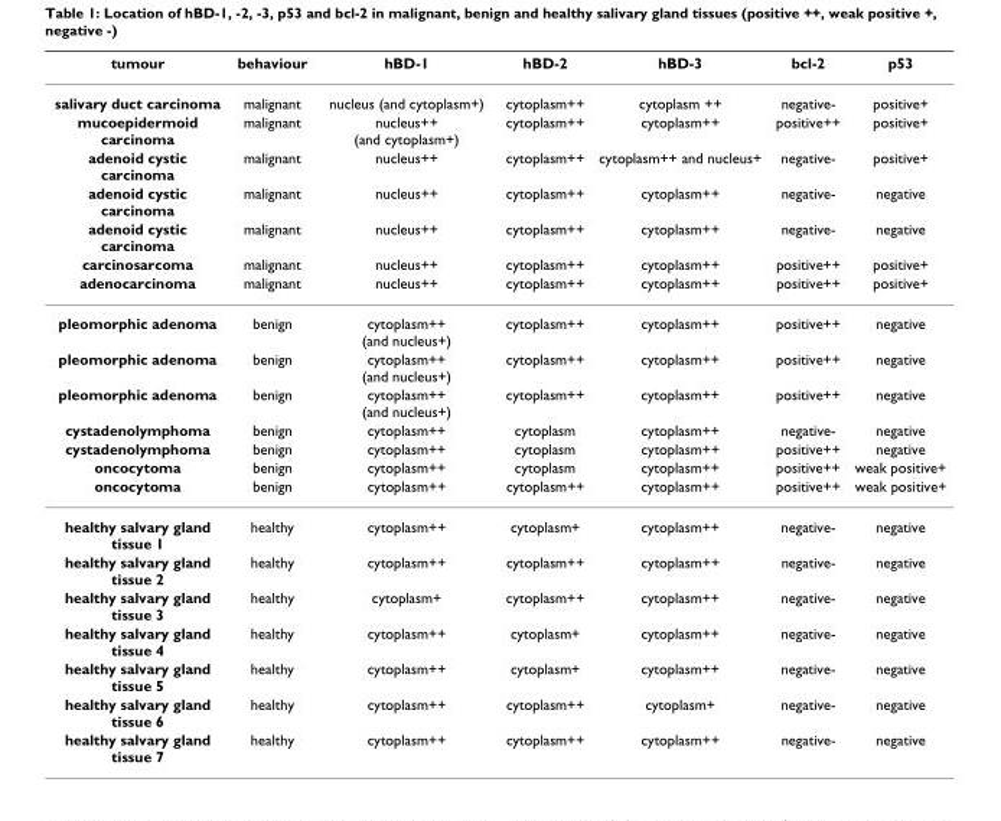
<table><thead><tr><td>tumour</td><td>behaviour</td><td>hBD-1</td><td>hBD-2</td><td>hBD-3</td><td>bcl-2</td><td>p53</td></tr></thead><tbody><tr><td>salivary duct carcinoma</td><td>malignant</td><td>nucleus (and cytoplasm+)</td><td>cytoplasm++</td><td>cytoplasm ++</td><td>negative-</td><td>positive+</td></tr><tr><td>mucoepidermoid carcinoma</td><td>malignant</td><td>nucleus++ (and cytoplasm+)</td><td>cytoplasm++</td><td>cytoplasm++</td><td>positive++</td><td>positive+</td></tr><tr><td>adenoid cystic carcinoma</td><td>malignant</td><td>nucleus++</td><td>cytoplasm++</td><td>cytoplasm++ and nucleus+</td><td>negative-</td><td>positive+</td></tr><tr><td>adenoid cystic carcinoma</td><td>malignant</td><td>nucleus++</td><td>cytoplasm++</td><td>cytoplasm++</td><td>negative-</td><td>negative</td></tr><tr><td>adenoid cystic carcinoma</td><td>malignant</td><td>nucleus++</td><td>cytoplasm++</td><td>cytoplasm++</td><td>negative-</td><td>negative</td></tr><tr><td>carcinosarcoma</td><td>malignant</td><td>nucleus++</td><td>cytoplasm++</td><td>cytoplasm++</td><td>positive++</td><td>positive+</td></tr><tr><td>adenocarcinoma</td><td>malignant</td><td>nucleus++</td><td>cytoplasm++</td><td>cytoplasm++</td><td>positive++</td><td>positive+</td></tr><tr><td>pleomorphic adenoma</td><td>benign</td><td>cytoplasm++ (and nucleus+)</td><td>cytoplasm++</td><td>cytoplasm++</td><td>positive++</td><td>negative</td></tr><tr><td>pleomorphic adenoma</td><td>benign</td><td>cytoplasm++ (and nucleus+)</td><td>cytoplasm++</td><td>cytoplasm++</td><td>positive++</td><td>negative</td></tr><tr><td>pleomorphic adenoma</td><td>benign</td><td>cytoplasm++ (and nucleus+)</td><td>cytoplasm++</td><td>cytoplasm++</td><td>positive++</td><td>negative</td></tr><tr><td>cystadenolymphoma</td><td>benign</td><td>cytoplasm++</td><td>cytoplasm</td><td>cytoplasm++</td><td>negative-</td><td>negative</td></tr><tr><td>cystadenolymphoma</td><td>benign</td><td>cytoplasm++</td><td>cytoplasm</td><td>cytoplasm++</td><td>positive++</td><td>negative</td></tr><tr><td>oncocytoma</td><td>benign</td><td>cytoplasm++</td><td>cytoplasm</td><td>cytoplasm++</td><td>positive++</td><td>weak positive+</td></tr><tr><td>oncocytoma</td><td>benign</td><td>cytoplasm++</td><td>cytoplasm++</td><td>cytoplasm++</td><td>positive++</td><td>weak positive+</td></tr><tr><td>healthy salvary gland tissue 1</td><td>healthy</td><td>cytoplasm++</td><td>cytoplasm+</td><td>cytoplasm++</td><td>negative-</td><td>negative</td></tr><tr><td>healthy salvary gland tissue 2</td><td>healthy</td><td>cytoplasm++</td><td>cytoplasm++</td><td>cytoplasm++</td><td>negative-</td><td>negative</td></tr><tr><td>healthy salvary gland tissue 3</td><td>healthy</td><td>cytoplasm+</td><td>cytoplasm++</td><td>cytoplasm++</td><td>negative-</td><td>negative</td></tr><tr><td>healthy salvary gland tissue 4</td><td>healthy</td><td>cytoplasm++</td><td>cytoplasm+</td><td>cytoplasm++</td><td>negative-</td><td>negative</td></tr><tr><td>healthy salvary gland tissue 5</td><td>healthy</td><td>cytoplasm++</td><td>cytoplasm+</td><td>cytoplasm++</td><td>negative-</td><td>negative</td></tr><tr><td>healthy salvary gland tissue 6</td><td>healthy</td><td>cytoplasm++</td><td>cytoplasm++</td><td>cytoplasm+</td><td>negative-</td><td>negative</td></tr><tr><td>healthy salvary gland tissue 7</td><td>healthy</td><td>cytoplasm++</td><td>cytoplasm++</td><td>cytoplasm++</td><td>negative-</td><td>negative</td></tr></tbody></table>